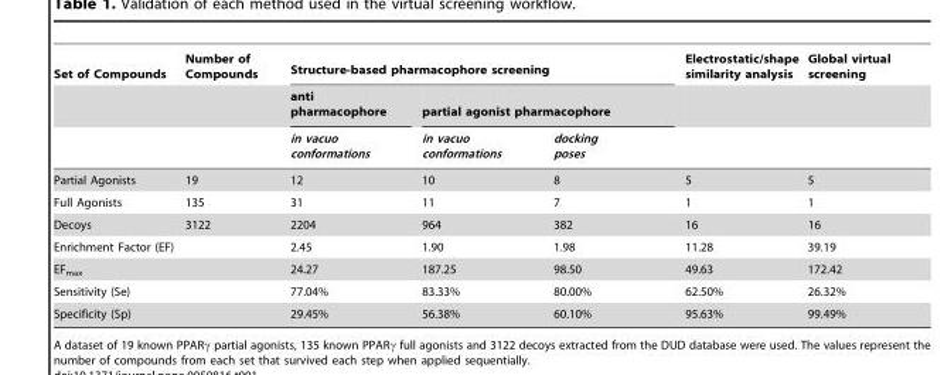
<table><thead><tr><td rowspan="3">Set of Compounds</td><td rowspan="3">Number of Compounds</td><td colspan="3">Structure-based pharmacophore screening</td><td rowspan="3">Electrostatic/shape similarity analysis</td><td rowspan="3">Global virtual screening</td></tr><tr><td rowspan="2">anti pharmacophore in vacuo conformations</td><td colspan="2">partial agonist pharmacophore</td></tr><tr><td>in vacuo conformations</td><td>docking poses</td></tr></thead><tbody><tr><td>Partial Agonists</td><td>19</td><td>12</td><td>10</td><td>8</td><td>5</td><td>5</td></tr><tr><td>Full Agonists</td><td>135</td><td>31</td><td>11</td><td>7</td><td>1</td><td>1</td></tr><tr><td>Decoys</td><td>3122</td><td>2204</td><td>964</td><td>382</td><td>16</td><td>16</td></tr><tr><td colspan="2">Enrichment Factor (EF)</td><td>2.45</td><td>1.90</td><td>1.98</td><td>11.28</td><td>39.19</td></tr><tr><td colspan="2">EF<sub>max</sub></td><td>24.27</td><td>187.25</td><td>98.50</td><td>49.63</td><td>172.42</td></tr><tr><td colspan="2">Sensitivity (Se)</td><td>77.04%</td><td>83.33%</td><td>80.00%</td><td>62.50%</td><td>26.32%</td></tr><tr><td colspan="2">Specificity (Sp)</td><td>29.45%</td><td>56.38%</td><td>60.10%</td><td>95.63%</td><td>99.49%</td></tr></tbody></table>